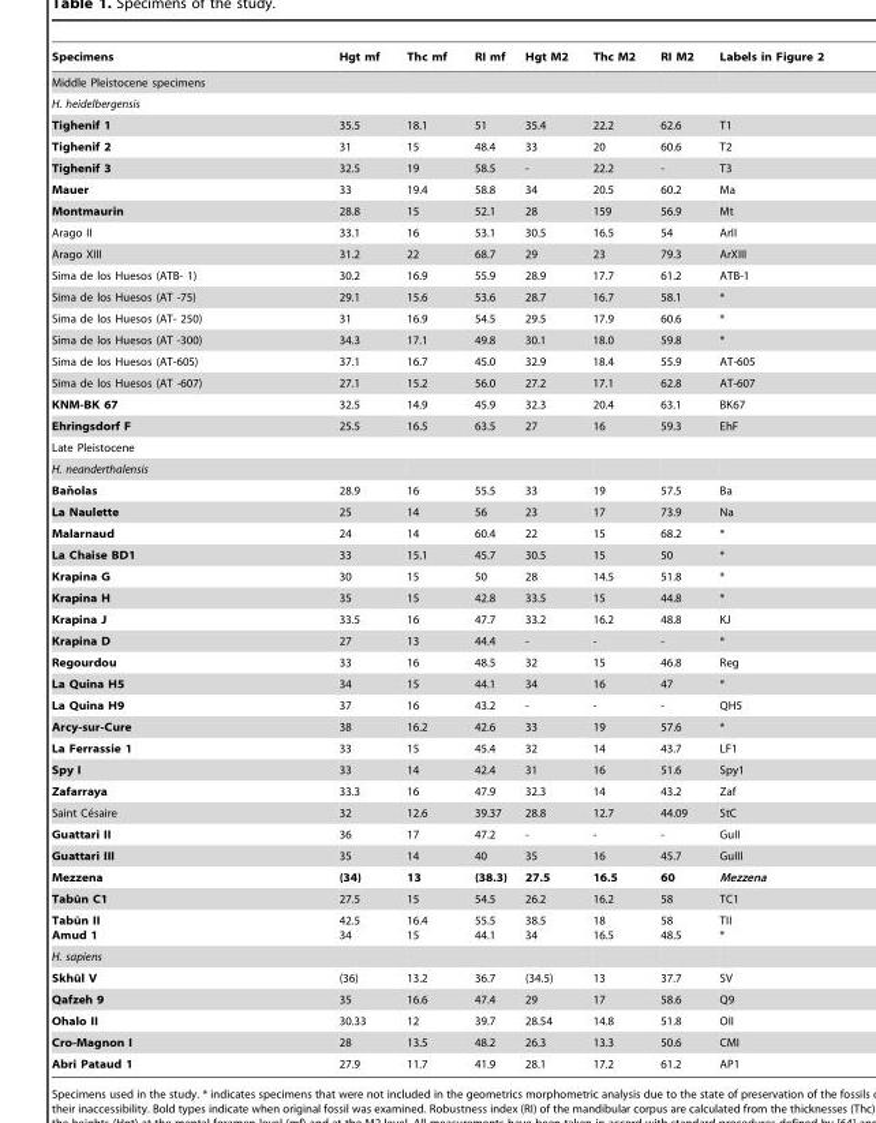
<table><thead><tr><td>Specimens</td><td>Hgt mf</td><td>Thc mf</td><td>RI mf</td><td>Hgt M2</td><td>Thc M2</td><td>RI M2</td><td>Labels in Figure 2</td></tr></thead><tbody><tr><td colspan="8">Middle Pleistocene specimens</td></tr><tr><td colspan="8">H. heidelbergensis</td></tr><tr><td>Tighenif 1</td><td>35.5</td><td>18.1</td><td>51</td><td>35.4</td><td>22.2</td><td>62.6</td><td>T1</td></tr><tr><td>Tighenif 2</td><td>31</td><td>15</td><td>48.4</td><td>33</td><td>20</td><td>60.6</td><td>T2</td></tr><tr><td>Tighenif 3</td><td>32.5</td><td>19</td><td>58.5</td><td>-</td><td>22.2</td><td>-</td><td>T3</td></tr><tr><td>Mauer</td><td>33</td><td>19.4</td><td>58.8</td><td>34</td><td>20.5</td><td>60.2</td><td>Ma</td></tr><tr><td>Montmaurin</td><td>28.8</td><td>15</td><td>52.1</td><td>28</td><td>159</td><td>56.9</td><td>Mt</td></tr><tr><td>Arago II</td><td>33.1</td><td>16</td><td>53.1</td><td>30.5</td><td>16.5</td><td>54</td><td>ArII</td></tr><tr><td>Arago XIII</td><td>31.2</td><td>22</td><td>68.7</td><td>29</td><td>23</td><td>79.3</td><td>ArXIII</td></tr><tr><td>Sima de los Huesos (ATB- 1)</td><td>30.2</td><td>16.9</td><td>55.9</td><td>28.9</td><td>17.7</td><td>61.2</td><td>ATB-1</td></tr><tr><td>Sima de los Huesos (AT -75)</td><td>29.1</td><td>15.6</td><td>53.6</td><td>28.7</td><td>16.7</td><td>58.1</td><td>*</td></tr><tr><td>Sima de los Huesos (AT- 250)</td><td>31</td><td>16.9</td><td>54.5</td><td>29.5</td><td>17.9</td><td>60.6</td><td>*</td></tr><tr><td>Sima de los Huesos (AT -300)</td><td>34.3</td><td>17.1</td><td>49.8</td><td>30.1</td><td>18.0</td><td>59.8</td><td>*</td></tr><tr><td>Sima de los Huesos (AT-605)</td><td>37.1</td><td>16.7</td><td>45.0</td><td>32.9</td><td>18.4</td><td>55.9</td><td>AT-605</td></tr><tr><td>Sima de los Huesos (AT -607)</td><td>27.1</td><td>15.2</td><td>56.0</td><td>27.2</td><td>17.1</td><td>62.8</td><td>AT-607</td></tr><tr><td>KNM-BK 67</td><td>32.5</td><td>14.9</td><td>45.9</td><td>32.3</td><td>20.4</td><td>63.1</td><td>BK67</td></tr><tr><td>Ehringsdorf F</td><td>25.5</td><td>16.5</td><td>63.5</td><td>27</td><td>16</td><td>59.3</td><td>EhF</td></tr><tr><td colspan="8">Late Pleistocene</td></tr><tr><td colspan="8">H. neanderthalensis</td></tr><tr><td>Banˇ olas</td><td>28.9</td><td>16</td><td>55.5</td><td>33</td><td>19</td><td>57.5</td><td>Ba</td></tr><tr><td>La Naulette</td><td>25</td><td>14</td><td>56</td><td>23</td><td>17</td><td>73.9</td><td>Na</td></tr><tr><td>Malarnaud</td><td>24</td><td>14</td><td>60.4</td><td>22</td><td>15</td><td>68.2</td><td>*</td></tr><tr><td>La Chaise BD1</td><td>33</td><td>15.1</td><td>45.7</td><td>30.5</td><td>15</td><td>50</td><td>*</td></tr><tr><td>Krapina G</td><td>30</td><td>15</td><td>50</td><td>28</td><td>14.5</td><td>51.8</td><td>*</td></tr><tr><td>Krapina H</td><td>35</td><td>15</td><td>42.8</td><td>33.5</td><td>15</td><td>44.8</td><td>*</td></tr><tr><td>Krapina J</td><td>33.5</td><td>16</td><td>47.7</td><td>33.2</td><td>16.2</td><td>48.8</td><td>KJ</td></tr><tr><td>Krapina D</td><td>27</td><td>13</td><td>44.4</td><td>-</td><td>-</td><td>-</td><td>*</td></tr><tr><td>Regourdou</td><td>33</td><td>16</td><td>48.5</td><td>32</td><td>15</td><td>46.8</td><td>Reg</td></tr><tr><td>La Quina H5</td><td>34</td><td>15</td><td>44.1</td><td>34</td><td>16</td><td>47</td><td>*</td></tr><tr><td>La Quina H9</td><td>37</td><td>16</td><td>43.2</td><td>-</td><td>-</td><td>-</td><td>QH5</td></tr><tr><td>Arcy-sur-Cure</td><td>38</td><td>16.2</td><td>42.6</td><td>33</td><td>19</td><td>57.6</td><td>*</td></tr><tr><td>La Ferrassie 1</td><td>33</td><td>15</td><td>45.4</td><td>32</td><td>14</td><td>43.7</td><td>LF1</td></tr><tr><td>Spy I</td><td>33</td><td>14</td><td>42.4</td><td>31</td><td>16</td><td>51.6</td><td>Spy1</td></tr><tr><td>Zafarraya</td><td>33.3</td><td>16</td><td>47.9</td><td>32.3</td><td>14</td><td>43.2</td><td>Zaf</td></tr><tr><td>Saint Ce´saire</td><td>32</td><td>12.6</td><td>39.37</td><td>28.8</td><td>12.7</td><td>44.09</td><td>StC</td></tr><tr><td>Guattari II</td><td>36</td><td>17</td><td>47.2</td><td>-</td><td>-</td><td>-</td><td>GuII</td></tr><tr><td>Guattari III</td><td>35</td><td>14</td><td>40</td><td>35</td><td>16</td><td>45.7</td><td>GuIII</td></tr><tr><td>Mezzena</td><td>(34)</td><td>13</td><td>(38.3)</td><td>27.5</td><td>16.5</td><td>60</td><td>Mezzena</td></tr><tr><td>Tabu¯ n C1</td><td>27.5</td><td>15</td><td>54.5</td><td>26.2</td><td>16.2</td><td>58</td><td>TC1</td></tr><tr><td>Tabu¯ n II Amud 1</td><td>42.5 34</td><td>16.4 15</td><td>55.5 44.1</td><td>38.5 34</td><td>18 16.5</td><td>58 48.5</td><td>TII *</td></tr><tr><td colspan="8">H. sapiens</td></tr><tr><td>Skhu¯ l V</td><td>(36)</td><td>13.2</td><td>36.7</td><td>(34.5)</td><td>13</td><td>37.7</td><td>SV</td></tr><tr><td>Qafzeh 9</td><td>35</td><td>16.6</td><td>47.4</td><td>29</td><td>17</td><td>58.6</td><td>Q9</td></tr><tr><td>Ohalo II</td><td>30.33</td><td>12</td><td>39.7</td><td>28.54</td><td>14.8</td><td>51.8</td><td>OII</td></tr><tr><td>Cro-Magnon I</td><td>28</td><td>13.5</td><td>48.2</td><td>26.3</td><td>13.3</td><td>50.6</td><td>CMI</td></tr><tr><td>Abri Pataud 1</td><td>27.9</td><td>11.7</td><td>41.9</td><td>28.1</td><td>17.2</td><td>61.2</td><td>AP1</td></tr></tbody></table>